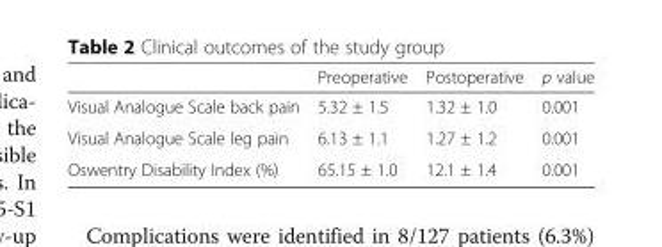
<table><thead><tr><td></td><td>Preoperative</td><td>Postoperative</td><td>p value</td></tr></thead><tbody><tr><td>Visual Analogue Scale back pain</td><td>5.32 ± 1.5</td><td>1.32 ± 1.0</td><td>0.001</td></tr><tr><td>Visual Analogue Scale leg pain</td><td>6.13 ± 1.1</td><td>1.27 ± 1.2</td><td>0.001</td></tr><tr><td>Oswentry Disability Index (%)</td><td>65.15 ± 1.0</td><td>12.1 ± 1.4</td><td>0.001</td></tr></tbody></table>